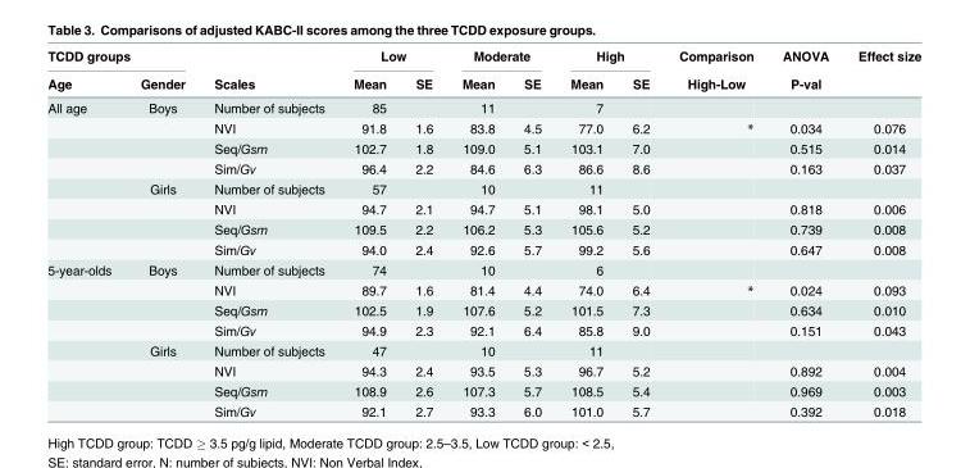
<table><thead><tr><td colspan="2">TCDD groups</td><td rowspan="2">Scales</td><td colspan="2">Low</td><td colspan="2">Moderate</td><td colspan="2">High</td><td rowspan="2">Comparison High-Low</td><td rowspan="2">ANOVA P-val</td><td rowspan="2">Effect size</td></tr><tr><td>Age</td><td>Gender</td><td>Mean</td><td>SE</td><td>Mean</td><td>SE</td><td>Mean</td><td>SE</td></tr></thead><tbody><tr><td rowspan="8">All age</td><td>Boys</td><td>Number of subjects</td><td>85</td><td></td><td>11</td><td></td><td>7</td><td></td><td></td><td></td><td></td></tr><tr><td></td><td>NVI</td><td>91.8</td><td>1.6</td><td>83.8</td><td>4.5</td><td>77.0</td><td>6.2</td><td>*</td><td>0.034</td><td>0.076</td></tr><tr><td></td><td>Seq/Gsm</td><td>102.7</td><td>1.8</td><td>109.0</td><td>5.1</td><td>103.1</td><td>7.0</td><td></td><td>0.515</td><td>0.014</td></tr><tr><td></td><td>Sim/Gv</td><td>96.4</td><td>2.2</td><td>84.6</td><td>6.3</td><td>86.6</td><td>8.6</td><td></td><td>0.163</td><td>0.037</td></tr><tr><td>Girls</td><td>Number of subjects</td><td>57</td><td></td><td>10</td><td></td><td>11</td><td></td><td></td><td></td><td></td></tr><tr><td></td><td>NVI</td><td>94.7</td><td>2.1</td><td>94.7</td><td>5.1</td><td>98.1</td><td>5.0</td><td></td><td>0.818</td><td>0.006</td></tr><tr><td></td><td>Seq/Gsm</td><td>109.5</td><td>2.2</td><td>106.2</td><td>5.3</td><td>105.6</td><td>5.2</td><td></td><td>0.739</td><td>0.008</td></tr><tr><td></td><td>Sim/Gv</td><td>94.0</td><td>2.4</td><td>92.6</td><td>5.7</td><td>99.2</td><td>5.6</td><td></td><td>0.647</td><td>0.008</td></tr><tr><td rowspan="8">5-year-olds</td><td>Boys</td><td>Number of subjects</td><td>74</td><td></td><td>10</td><td></td><td>6</td><td></td><td></td><td></td><td></td></tr><tr><td></td><td>NVI</td><td>89.7</td><td>1.6</td><td>81.4</td><td>4.4</td><td>74.0</td><td>6.4</td><td>*</td><td>0.024</td><td>0.093</td></tr><tr><td></td><td>Seq/Gsm</td><td>102.5</td><td>1.9</td><td>107.6</td><td>5.2</td><td>101.5</td><td>7.3</td><td></td><td>0.634</td><td>0.010</td></tr><tr><td></td><td>Sim/Gv</td><td>94.9</td><td>2.3</td><td>92.1</td><td>6.4</td><td>85.8</td><td>9.0</td><td></td><td>0.151</td><td>0.043</td></tr><tr><td>Girls</td><td>Number of subjects</td><td>47</td><td></td><td>10</td><td></td><td>11</td><td></td><td></td><td></td><td></td></tr><tr><td></td><td>NVI</td><td>94.3</td><td>2.4</td><td>93.5</td><td>5.3</td><td>96.7</td><td>5.2</td><td></td><td>0.892</td><td>0.004</td></tr><tr><td></td><td>Seq/Gsm</td><td>108.9</td><td>2.6</td><td>107.3</td><td>5.7</td><td>108.5</td><td>5.4</td><td></td><td>0.969</td><td>0.003</td></tr><tr><td></td><td>Sim/Gv</td><td>92.1</td><td>2.7</td><td>93.3</td><td>6.0</td><td>101.0</td><td>5.7</td><td></td><td>0.392</td><td>0.018</td></tr></tbody></table>